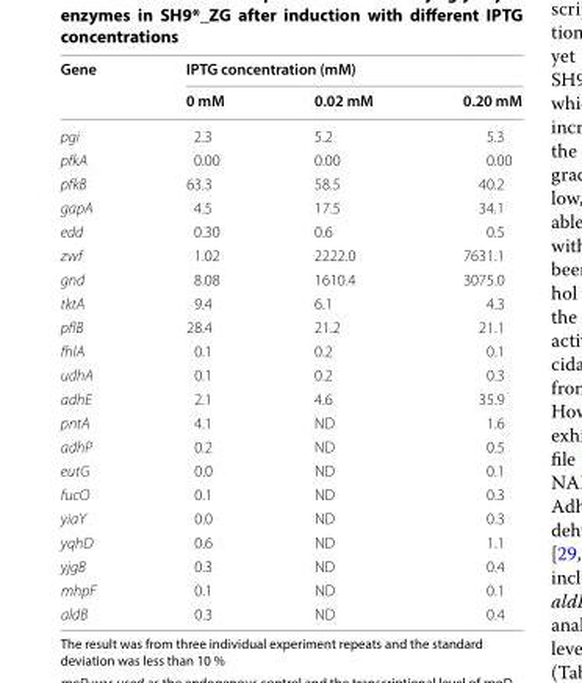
<table><thead><tr><td rowspan="2">Gene</td><td colspan="3">IPTG concentration (mM)</td></tr><tr><td>0 mM</td><td>0.02 mM</td><td>0.20 mM</td></tr></thead><tbody><tr><td>pgi</td><td>2.3</td><td>5.2</td><td>5.3</td></tr><tr><td>pfkA</td><td>0.00</td><td>0.00</td><td>0.00</td></tr><tr><td>pfkB</td><td>63.3</td><td>58.5</td><td>40.2</td></tr><tr><td>gapA</td><td>4.5</td><td>17.5</td><td>34.1</td></tr><tr><td>edd</td><td>0.30</td><td>0.6</td><td>0.5</td></tr><tr><td>zwf</td><td>1.02</td><td>2222.0</td><td>7631.1</td></tr><tr><td>gnd</td><td>8.08</td><td>1610.4</td><td>3075.0</td></tr><tr><td>tktA</td><td>9.4</td><td>6.1</td><td>4.3</td></tr><tr><td>pflB</td><td>28.4</td><td>21.2</td><td>21.1</td></tr><tr><td>fhlA</td><td>0.1</td><td>0.2</td><td>0.1</td></tr><tr><td>udhA</td><td>0.1</td><td>0.2</td><td>0.3</td></tr><tr><td>adhE</td><td>2.1</td><td>4.6</td><td>35.9</td></tr><tr><td>pntA</td><td>4.1</td><td>ND</td><td>1.6</td></tr><tr><td>adhP</td><td>0.2</td><td>ND</td><td>0.5</td></tr><tr><td>eutG</td><td>0.0</td><td>ND</td><td>0.1</td></tr><tr><td>fucO</td><td>0.1</td><td>ND</td><td>0.3</td></tr><tr><td>yiaY</td><td>0.0</td><td>ND</td><td>0.3</td></tr><tr><td>yqhD</td><td>0.6</td><td>ND</td><td>1.1</td></tr><tr><td>yjgB</td><td>0.3</td><td>ND</td><td>0.4</td></tr><tr><td>mhpF</td><td>0.1</td><td>ND</td><td>0.1</td></tr><tr><td>aldB</td><td>0.3</td><td>ND</td><td>0.4</td></tr></tbody></table>